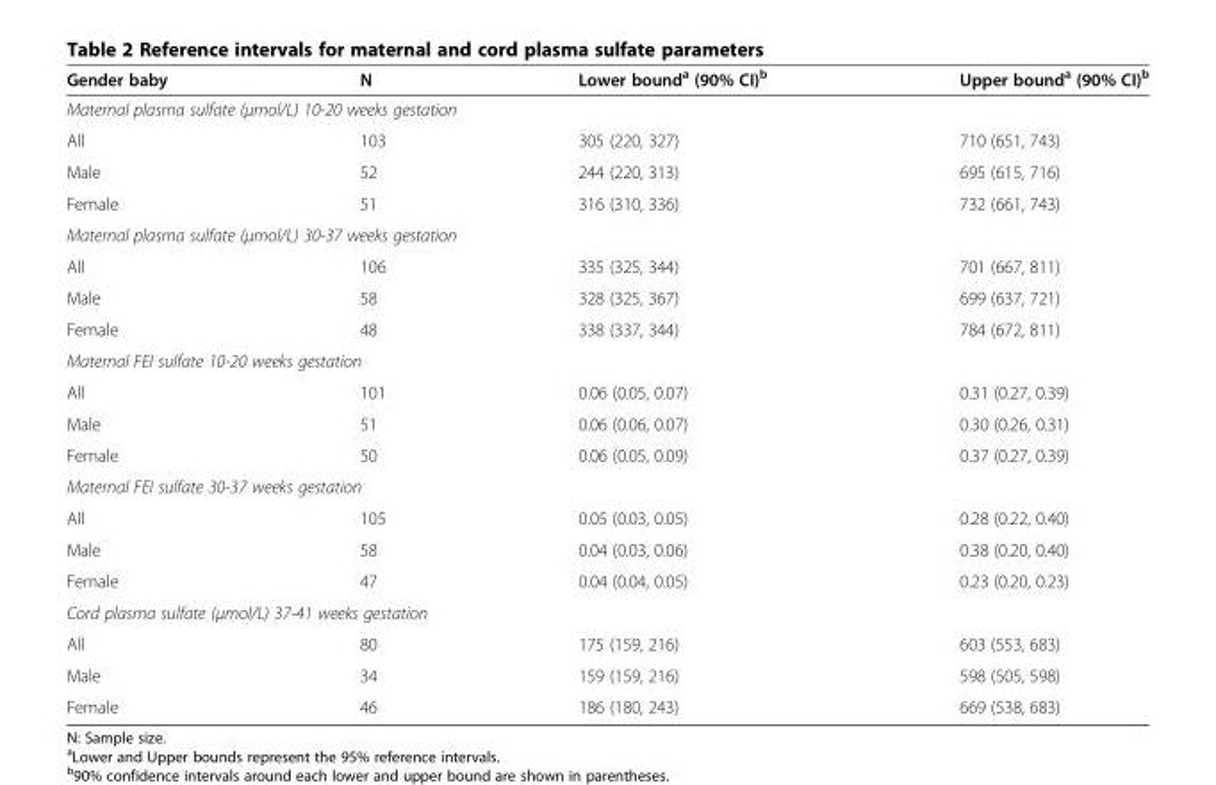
<table><thead><tr><td>Gender baby</td><td>N</td><td>Lower bound<sup>a</sup> (90% CI)<sup>b</sup></td><td>Upper bound<sup>a</sup> (90% CI)<sup>b</sup></td></tr></thead><tbody><tr><td colspan="4">Maternal plasma sulfate (μmol/L) 10-20 weeks gestation</td></tr><tr><td>All</td><td>103</td><td>305 (220, 327)</td><td>710 (651, 743)</td></tr><tr><td>Male</td><td>52</td><td>244 (220, 313)</td><td>695 (615, 716)</td></tr><tr><td>Female</td><td>51</td><td>316 (310, 336)</td><td>732 (661, 743)</td></tr><tr><td colspan="4">Maternal plasma sulfate (μmol/L) 30-37 weeks gestation</td></tr><tr><td>All</td><td>106</td><td>335 (325, 344)</td><td>701 (667, 811)</td></tr><tr><td>Male</td><td>58</td><td>328 (325, 367)</td><td>699 (637, 721)</td></tr><tr><td>Female</td><td>48</td><td>338 (337, 344)</td><td>784 (672, 811)</td></tr><tr><td colspan="4">Maternal FEI sulfate 10-20 weeks gestation</td></tr><tr><td>All</td><td>101</td><td>0.06 (0.05, 0.07)</td><td>0.31 (0.27, 0.39)</td></tr><tr><td>Male</td><td>51</td><td>0.06 (0.06, 0.07)</td><td>0.30 (0.26, 0.31)</td></tr><tr><td>Female</td><td>50</td><td>0.06 (0.05, 0.09)</td><td>0.37 (0.27, 0.39)</td></tr><tr><td colspan="4">Maternal FEI sulfate 30-37 weeks gestation</td></tr><tr><td>All</td><td>105</td><td>0.05 (0.03, 0.05)</td><td>0.28 (0.22, 0.40)</td></tr><tr><td>Male</td><td>58</td><td>0.04 (0.03, 0.06)</td><td>0.38 (0.20, 0.40)</td></tr><tr><td>Female</td><td>47</td><td>0.04 (0.04, 0.05)</td><td>0.23 (0.20, 0.23)</td></tr><tr><td colspan="4">Cord plasma sulfate (μmol/L) 37-41 weeks gestation</td></tr><tr><td>All</td><td>80</td><td>175 (159, 216)</td><td>603 (553, 683)</td></tr><tr><td>Male</td><td>34</td><td>159 (159, 216)</td><td>598 (505, 598)</td></tr><tr><td>Female</td><td>46</td><td>186 (180, 243)</td><td>669 (538, 683)</td></tr></tbody></table>